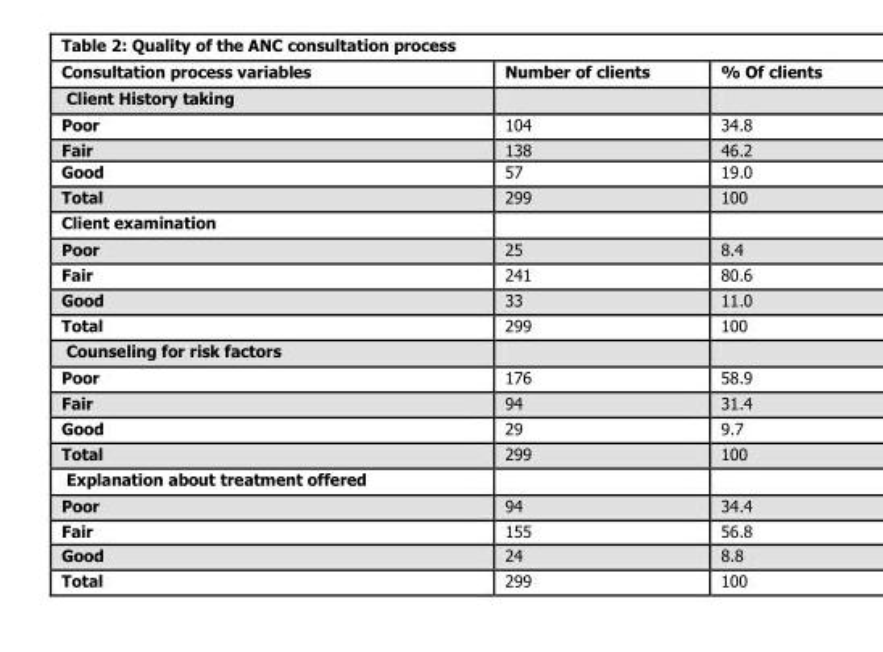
<table><thead><tr><td>Consultation process variables</td><td>Number of clients</td><td>% Of clients</td></tr></thead><tbody><tr><td colspan="3">Client History taking</td></tr><tr><td>Poor</td><td>104</td><td>34.8</td></tr><tr><td>Fair</td><td>138</td><td>46.2</td></tr><tr><td>Good</td><td>57</td><td>19.0</td></tr><tr><td>Total</td><td>299</td><td>100</td></tr><tr><td colspan="3">Client examination</td></tr><tr><td>Poor</td><td>25</td><td>8.4</td></tr><tr><td>Fair</td><td>241</td><td>80.6</td></tr><tr><td>Good</td><td>33</td><td>11.0</td></tr><tr><td>Total</td><td>299</td><td>100</td></tr><tr><td colspan="3">Counseling for risk factors</td></tr><tr><td>Poor</td><td>176</td><td>58.9</td></tr><tr><td>Fair</td><td>94</td><td>31.4</td></tr><tr><td>Good</td><td>29</td><td>9.7</td></tr><tr><td>Total</td><td>299</td><td>100</td></tr><tr><td colspan="3">Explanation about treatment offered</td></tr><tr><td>Poor</td><td>94</td><td>34.4</td></tr><tr><td>Fair</td><td>155</td><td>56.8</td></tr><tr><td>Good</td><td>24</td><td>8.8</td></tr><tr><td>Total</td><td>299</td><td>100</td></tr></tbody></table>